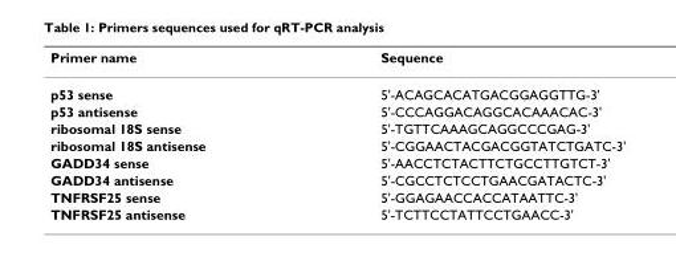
<table><thead><tr><td>Primer name</td><td>Sequence</td></tr></thead><tbody><tr><td>p53 sense</td><td>5&#x27;-ACAGCACATGACGGAGGTTG-3&#x27;</td></tr><tr><td>p53 antisense</td><td>5&#x27;-CCCAGGACAGGCACAAACAC-3&#x27;</td></tr><tr><td>ribosomal 18S sense</td><td>5&#x27;-TGTTCAAAGCAGGCCCGAG-3&#x27;</td></tr><tr><td>ribosomal 18S antisense</td><td>5&#x27;-CGGAACTACGACGGTATCTGATC-3&#x27;</td></tr><tr><td>GADD34 sense</td><td>5&#x27;-AACCTCTACTTCTGCCTTGTCT-3&#x27;</td></tr><tr><td>GADD34 antisense</td><td>5&#x27;-CGCCTCTCCTGAACGATACTC-3&#x27;</td></tr><tr><td>TNFRSF25 sense</td><td>5&#x27;-GGAGAACCACCATAATTC-3&#x27;</td></tr><tr><td>TNFRSF25 antisense</td><td>5&#x27;-TCTTCCTATTCCTGAACC-3&#x27;</td></tr></tbody></table>